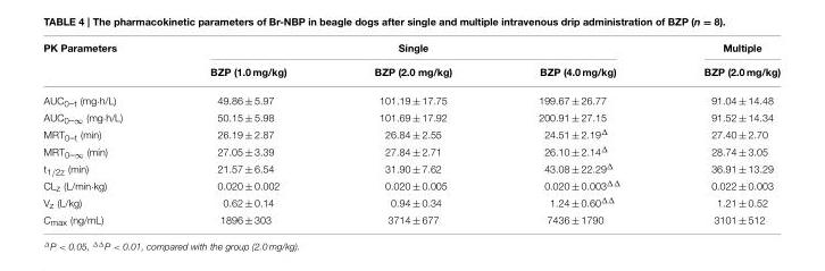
<table><thead><tr><td rowspan="2">PK Parameters</td><td colspan="3">Single</td><td rowspan="2">Multiple BZP (2.0 mg/kg)</td></tr><tr><td>BZP (1.0 mg/kg)</td><td>BZP (2.0 mg/kg)</td><td>BZP (4.0 mg/kg)</td></tr></thead><tbody><tr><td>AUC<sub>0–t</sub> (mg·h/L)</td><td>49.86 ± 5.97</td><td>101.19 ± 17.75</td><td>199.67 ± 26.77</td><td>91.04 ± 14.48</td></tr><tr><td>AUC<sub>0–∞</sub> (mg·h/L)</td><td>50.15 ± 5.98</td><td>101.69 ± 17.92</td><td>200.91 ± 27.15</td><td>91.52 ± 14.34</td></tr><tr><td>MRT<sub>0–t</sub> (min)</td><td>26.19 ± 2.87</td><td>26.84 ± 2.55</td><td>24.51 ± 2.19<sup>Δ</sup></td><td>27.40 ± 2.70</td></tr><tr><td>MRT<sub>0–∞</sub> (min)</td><td>27.05 ± 3.39</td><td>27.84 ± 2.71</td><td>26.10 ± 2.14<sup>Δ</sup></td><td>28.74 ± 3.05</td></tr><tr><td>t<sub>1/2z</sub> (min)</td><td>21.57 ± 6.54</td><td>31.90 ± 7.62</td><td>43.08 ± 22.29<sup>Δ</sup></td><td>36.91 ± 13.29</td></tr><tr><td>CL<sub>z</sub> (L/min·kg)</td><td>0.020 ± 0.002</td><td>0.020 ± 0.005</td><td>0.020 ± 0.003<sup>ΔΔ</sup></td><td>0.022 ± 0.003</td></tr><tr><td>V<sub>z</sub> (L/kg)</td><td>0.62 ± 0.14</td><td>0.94 ± 0.34</td><td>1.24 ± 0.60<sup>ΔΔ</sup></td><td>1.21 ± 0.52</td></tr><tr><td>C<sub>max</sub> (ng/mL)</td><td>1896 ± 303</td><td>3714 ± 677</td><td>7436 ± 1790</td><td>3101 ± 512</td></tr></tbody></table>